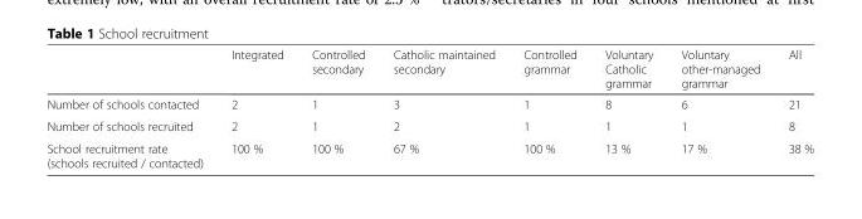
<table><thead><tr><td></td><td>Integrated</td><td>Controlled secondary</td><td>Catholic maintained secondary</td><td>Controlled grammar</td><td>Voluntary Catholic grammar</td><td>Voluntary other-managed grammar</td><td>All</td></tr></thead><tbody><tr><td>Number of schools contacted</td><td>2</td><td>1</td><td>3</td><td>1</td><td>8</td><td>6</td><td>21</td></tr><tr><td>Number of schools recruited</td><td>2</td><td>1</td><td>2</td><td>1</td><td>1</td><td>1</td><td>8</td></tr><tr><td>School recruitment rate (schools recruited / contacted)</td><td>100 %</td><td>100 %</td><td>67 %</td><td>100 %</td><td>13 %</td><td>17 %</td><td>38 %</td></tr></tbody></table>